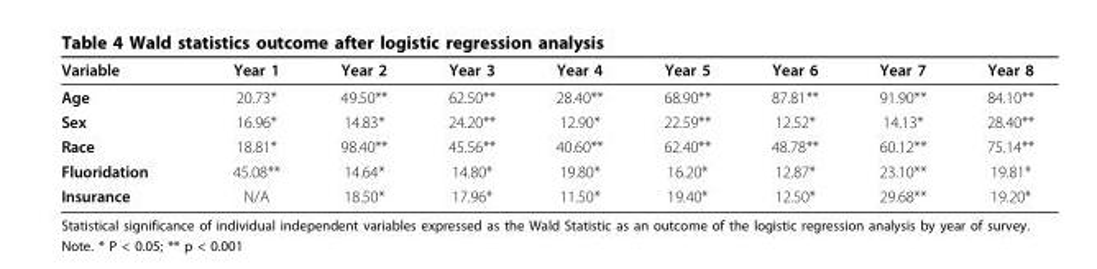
<table><thead><tr><td>Variable</td><td>Year 1</td><td>Year 2</td><td>Year 3</td><td>Year 4</td><td>Year 5</td><td>Year 6</td><td>Year 7</td><td>Year 8</td></tr></thead><tbody><tr><td>Age</td><td>20.73*</td><td>49.50**</td><td>62.50**</td><td>28.40**</td><td>68.90**</td><td>87.81**</td><td>91.90**</td><td>84.10**</td></tr><tr><td>Sex</td><td>16.96*</td><td>14.83*</td><td>24.20**</td><td>12.90*</td><td>22.59**</td><td>12.52*</td><td>14.13*</td><td>28.40**</td></tr><tr><td>Race</td><td>18.81*</td><td>98.40**</td><td>45.56**</td><td>40.60**</td><td>62.40**</td><td>48.78**</td><td>60.12**</td><td>75.14**</td></tr><tr><td>Fluoridation</td><td>45.08**</td><td>14.64*</td><td>14.80*</td><td>19.80*</td><td>16.20*</td><td>12.87*</td><td>23.10**</td><td>19.81*</td></tr><tr><td>Insurance</td><td>N/A</td><td>18.50*</td><td>17.96*</td><td>11.50*</td><td>19.40*</td><td>12.50*</td><td>29.68**</td><td>19.20*</td></tr></tbody></table>